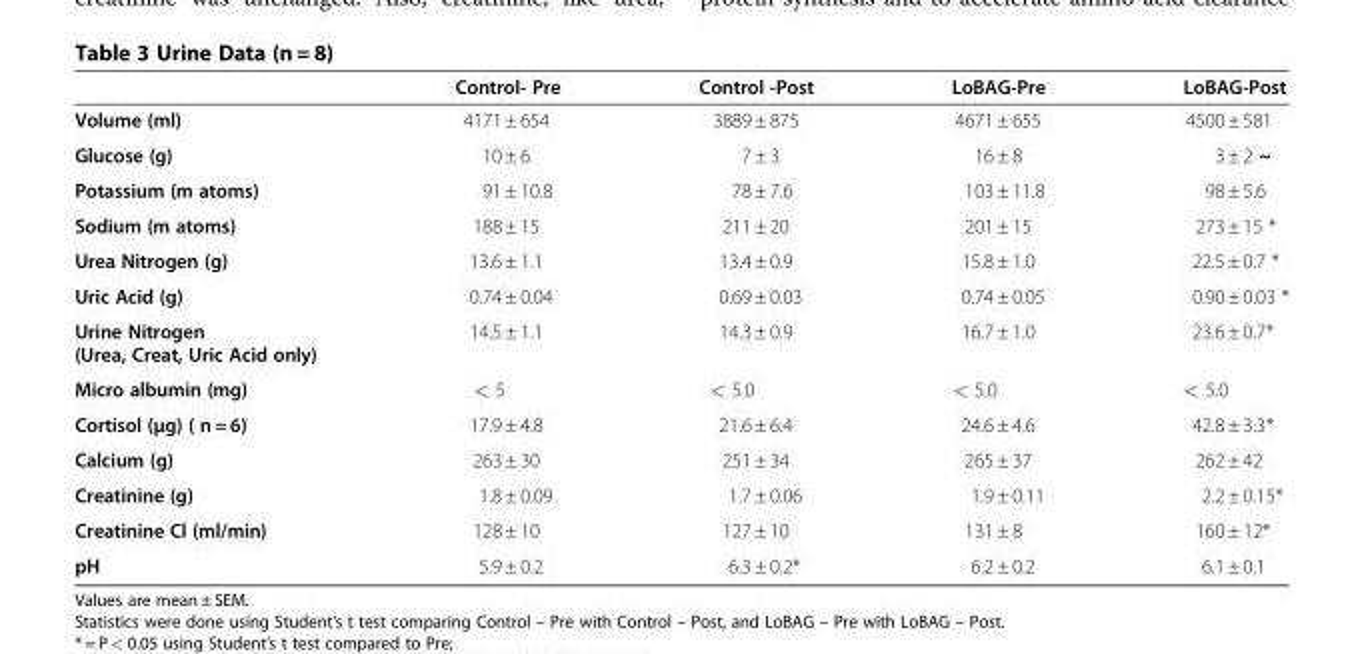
<table><thead><tr><td></td><td>Control- Pre</td><td>Control -Post</td><td>LoBAG-Pre</td><td>LoBAG-Post</td></tr></thead><tbody><tr><td>Volume (ml)</td><td>4171 ± 654</td><td>3889 ± 875</td><td>4671 ± 655</td><td>4500 ± 581</td></tr><tr><td>Glucose (g)</td><td>10 ± 6</td><td>7 ± 3</td><td>16 ± 8</td><td>3 ± 2 ~</td></tr><tr><td>Potassium (m atoms)</td><td>91 ± 10.8</td><td>78 ± 7.6</td><td>103 ± 11.8</td><td>98 ± 5.6</td></tr><tr><td>Sodium (m atoms)</td><td>188 ± 15</td><td>211 ± 20</td><td>201 ± 15</td><td>273 ± 15 *</td></tr><tr><td>Urea Nitrogen (g)</td><td>13.6 ± 1.1</td><td>13.4 ± 0.9</td><td>15.8 ± 1.0</td><td>22.5 ± 0.7 *</td></tr><tr><td>Uric Acid (g)</td><td>0.74 ± 0.04</td><td>0.69 ± 0.03</td><td>0.74 ± 0.05</td><td>0.90 ± 0.03 *</td></tr><tr><td>Urine Nitrogen (Urea, Creat, Uric Acid only)</td><td>14.5 ± 1.1</td><td>14.3 ± 0.9</td><td>16.7 ± 1.0</td><td>23.6 ± 0.7*</td></tr><tr><td>Micro albumin (mg)</td><td>&lt; 5</td><td>&lt; 5.0</td><td>&lt; 5.0</td><td>&lt; 5.0</td></tr><tr><td>Cortisol (μg) ( n = 6)</td><td>17.9 ± 4.8</td><td>21.6 ± 6.4</td><td>24.6 ± 4.6</td><td>42.8 ± 3.3*</td></tr><tr><td>Calcium (g)</td><td>263 ± 30</td><td>251 ± 34</td><td>265 ± 37</td><td>262 ± 42</td></tr><tr><td>Creatinine (g)</td><td>1.8 ± 0.09</td><td>1.7 ± 0.06</td><td>1.9 ± 0.11</td><td>2.2 ± 0.15*</td></tr><tr><td>Creatinine Cl (ml/min)</td><td>128 ± 10</td><td>127 ± 10</td><td>131 ± 8</td><td>160 ± 12*</td></tr><tr><td>pH</td><td>5.9 ± 0.2</td><td>6.3 ± 0.2*</td><td>6.2 ± 0.2</td><td>6.1 ± 0.1</td></tr></tbody></table>